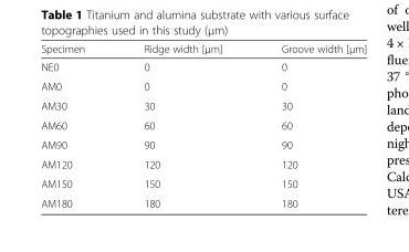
<table><thead><tr><td>Specimen</td><td>Ridge width [μm]</td><td>Groove width [μm]</td></tr></thead><tbody><tr><td>NE0</td><td>0</td><td>0</td></tr><tr><td>AM0</td><td>0</td><td>0</td></tr><tr><td>AM30</td><td>30</td><td>30</td></tr><tr><td>AM60</td><td>60</td><td>60</td></tr><tr><td>AM90</td><td>90</td><td>90</td></tr><tr><td>AM120</td><td>120</td><td>120</td></tr><tr><td>AM150</td><td>150</td><td>150</td></tr><tr><td>AM180</td><td>180</td><td>180</td></tr></tbody></table>